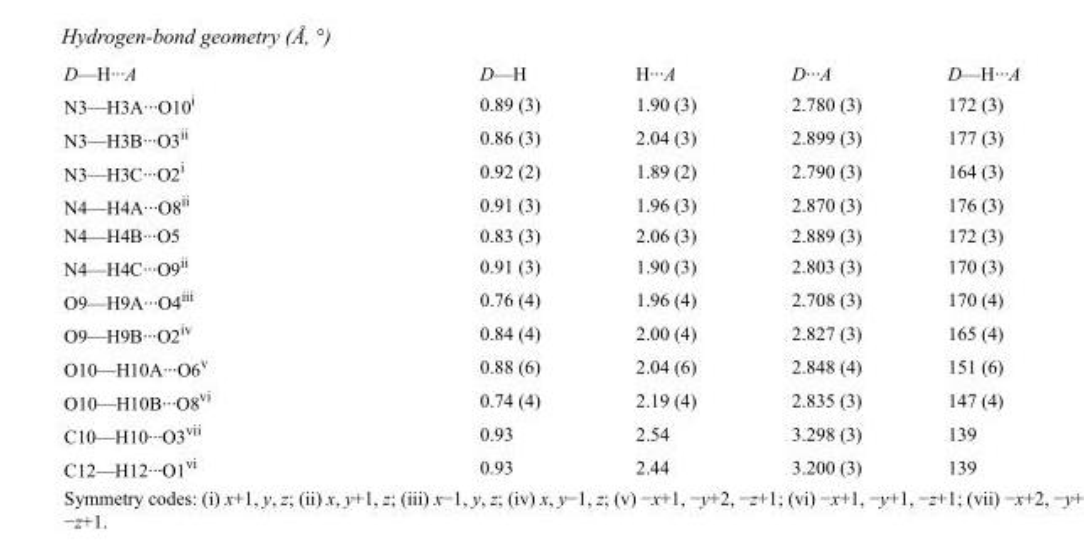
<table><tbody><tr><td>D—H···A</td><td>D—H</td><td>H···A</td><td>D···A</td><td>D—H···A</td></tr><tr><td>N3—H3A···O10<sup>i</sup></td><td>0.89 (3)</td><td>1.90 (3)</td><td>2.780 (3)</td><td>172 (3)</td></tr><tr><td>N3—H3B···O3<sup>ii</sup></td><td>0.86 (3)</td><td>2.04 (3)</td><td>2.899 (3)</td><td>177 (3)</td></tr><tr><td>N3—H3C···O2<sup>i</sup></td><td>0.92 (2)</td><td>1.89 (2)</td><td>2.790 (3)</td><td>164 (3)</td></tr><tr><td>N4—H4A···O8<sup>ii</sup></td><td>0.91 (3)</td><td>1.96 (3)</td><td>2.870 (3)</td><td>176 (3)</td></tr><tr><td>N4—H4B···O5</td><td>0.83 (3)</td><td>2.06 (3)</td><td>2.889 (3)</td><td>172 (3)</td></tr><tr><td>N4—H4C···O9<sup>ii</sup></td><td>0.91 (3)</td><td>1.90 (3)</td><td>2.803 (3)</td><td>170 (3)</td></tr><tr><td>O9—H9A···O4<sup>iii</sup></td><td>0.76 (4)</td><td>1.96 (4)</td><td>2.708 (3)</td><td>170 (4)</td></tr><tr><td>O9—H9B···O2<sup>iv</sup></td><td>0.84 (4)</td><td>2.00 (4)</td><td>2.827 (3)</td><td>165 (4)</td></tr><tr><td>O10—H10A···O6<sup>v</sup></td><td>0.88 (6)</td><td>2.04 (6)</td><td>2.848 (4)</td><td>151 (6)</td></tr><tr><td>O10—H10B···O8<sup>vi</sup></td><td>0.74 (4)</td><td>2.19 (4)</td><td>2.835 (3)</td><td>147 (4)</td></tr><tr><td>C10—H10···O3<sup>vii</sup></td><td>0.93</td><td>2.54</td><td>3.298 (3)</td><td>139</td></tr><tr><td>C12—H12···O1<sup>vi</sup></td><td>0.93</td><td>2.44</td><td>3.200 (3)</td><td>139</td></tr></tbody></table>